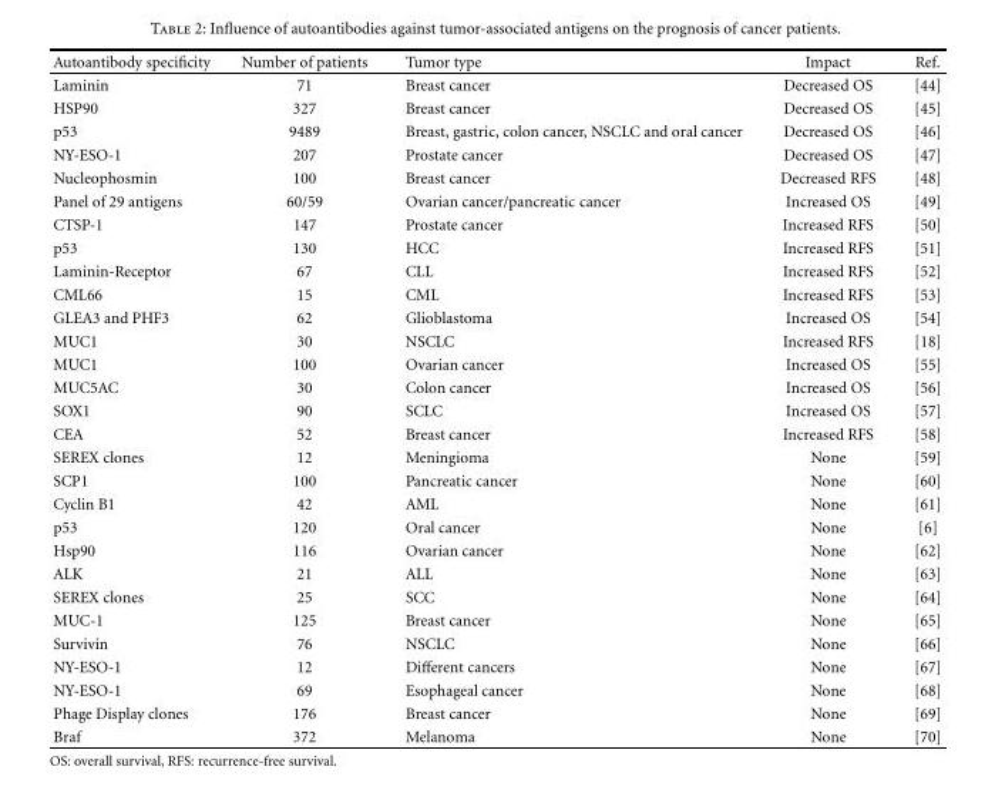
<table><thead><tr><td>Autoantibody specificity</td><td>Number of patients</td><td>Tumor type</td><td>Impact</td><td>Ref.</td></tr></thead><tbody><tr><td>Laminin</td><td>71</td><td>Breast cancer</td><td>Decreased OS</td><td>[44]</td></tr><tr><td>HSP90</td><td>327</td><td>Breast cancer</td><td>Decreased OS</td><td>[45]</td></tr><tr><td>p53</td><td>9489</td><td>Breast, gastric, colon cancer, NSCLC and oral cancer</td><td>Decreased OS</td><td>[46]</td></tr><tr><td>NY-ESO-1</td><td>207</td><td>Prostate cancer</td><td>Decreased OS</td><td>[47]</td></tr><tr><td>Nucleophosmin</td><td>100</td><td>Breast cancer</td><td>Decreased RFS</td><td>[48]</td></tr><tr><td>Panel of 29 antigens</td><td>60/59</td><td>Ovarian cancer/pancreatic cancer</td><td>Increased OS</td><td>[49]</td></tr><tr><td>CTSP-1</td><td>147</td><td>Prostate cancer</td><td>Increased RFS</td><td>[50]</td></tr><tr><td>p53</td><td>130</td><td>HCC</td><td>Increased RFS</td><td>[51]</td></tr><tr><td>Laminin-Receptor</td><td>67</td><td>CLL</td><td>Increased RFS</td><td>[52]</td></tr><tr><td>CML66</td><td>15</td><td>CML</td><td>Increased RFS</td><td>[53]</td></tr><tr><td>GLEA3 and PHF3</td><td>62</td><td>Glioblastoma</td><td>Increased OS</td><td>[54]</td></tr><tr><td>MUC1</td><td>30</td><td>NSCLC</td><td>Increased RFS</td><td>[18]</td></tr><tr><td>MUC1</td><td>100</td><td>Ovarian cancer</td><td>Increased OS</td><td>[55]</td></tr><tr><td>MUC5AC</td><td>30</td><td>Colon cancer</td><td>Increased OS</td><td>[56]</td></tr><tr><td>SOX1</td><td>90</td><td>SCLC</td><td>Increased OS</td><td>[57]</td></tr><tr><td>CEA</td><td>52</td><td>Breast cancer</td><td>Increased RFS</td><td>[58]</td></tr><tr><td>SEREX clones</td><td>12</td><td>Meningioma</td><td>None</td><td>[59]</td></tr><tr><td>SCP1</td><td>100</td><td>Pancreatic cancer</td><td>None</td><td>[60]</td></tr><tr><td>Cyclin B1</td><td>42</td><td>AML</td><td>None</td><td>[61]</td></tr><tr><td>p53</td><td>120</td><td>Oral cancer</td><td>None</td><td>[6]</td></tr><tr><td>Hsp90</td><td>116</td><td>Ovarian cancer</td><td>None</td><td>[62]</td></tr><tr><td>ALK</td><td>21</td><td>ALL</td><td>None</td><td>[63]</td></tr><tr><td>SEREX clones</td><td>25</td><td>SCC</td><td>None</td><td>[64]</td></tr><tr><td>MUC-1</td><td>125</td><td>Breast cancer</td><td>None</td><td>[65]</td></tr><tr><td>Survivin</td><td>76</td><td>NSCLC</td><td>None</td><td>[66]</td></tr><tr><td>NY-ESO-1</td><td>12</td><td>Different cancers</td><td>None</td><td>[67]</td></tr><tr><td>NY-ESO-1</td><td>69</td><td>Esophageal cancer</td><td>None</td><td>[68]</td></tr><tr><td>Phage Display clones</td><td>176</td><td>Breast cancer</td><td>None</td><td>[69]</td></tr><tr><td>Braf</td><td>372</td><td>Melanoma</td><td>None</td><td>[70]</td></tr></tbody></table>